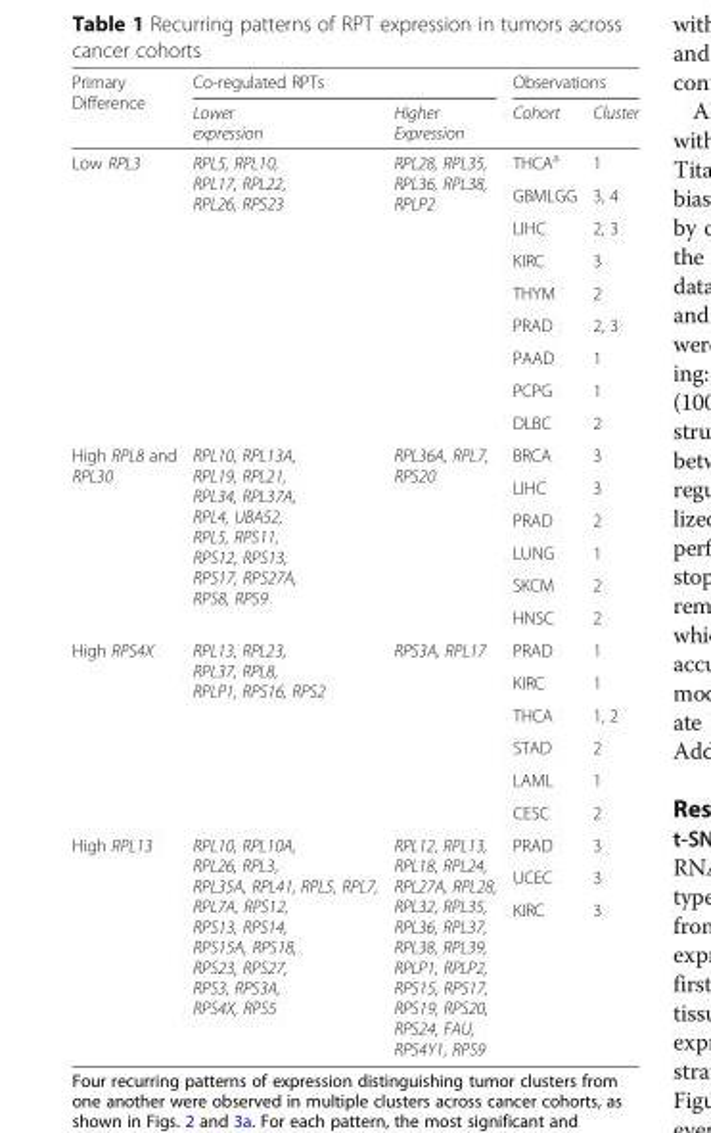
<table><thead><tr><td rowspan="2">Primary Difference</td><td colspan="2">Co-regulated RPTs</td><td colspan="2">Observations</td></tr><tr><td>Lower expression</td><td>Higher Expression</td><td>Cohort</td><td>Cluster</td></tr></thead><tbody><tr><td rowspan="9">Low RPL3</td><td rowspan="9">RPL5, RPL10, RPL17, RPL22, RPL26, RPS23</td><td rowspan="9">RPL28, RPL35, RPL36, RPL38, RPLP2</td><td>THCA<sup>a</sup></td><td>1</td></tr><tr><td>GBMLGG</td><td>3, 4</td></tr><tr><td>LIHC</td><td>2, 3</td></tr><tr><td>KIRC</td><td>3</td></tr><tr><td>THYM</td><td>2</td></tr><tr><td>PRAD</td><td>2, 3</td></tr><tr><td>PAAD</td><td>1</td></tr><tr><td>PCPG</td><td>1</td></tr><tr><td>DLBC</td><td>2</td></tr><tr><td rowspan="6">High RPL8 and RPL30</td><td rowspan="6">RPL10, RPL13A, RPL19, RPL21, RPL34, RPL37A, RPL4, UBA52, RPL5, RPS11, RPS12, RPS13, RPS17, RPS27A, RPS8, RPS9</td><td rowspan="6">RPL36A, RPL7, RPS20</td><td>BRCA</td><td>3</td></tr><tr><td>LIHC</td><td>3</td></tr><tr><td>PRAD</td><td>2</td></tr><tr><td>LUNG</td><td>1</td></tr><tr><td>SKCM</td><td>2</td></tr><tr><td>HNSC</td><td>2</td></tr><tr><td rowspan="6">High RPS4X</td><td rowspan="6">RPL13, RPL23, RPL37, RPL8, RPLP1, RPS16, RPS2</td><td rowspan="6">RPS3A, RPL17</td><td>PRAD</td><td>1</td></tr><tr><td>KIRC</td><td>1</td></tr><tr><td>THCA</td><td>1, 2</td></tr><tr><td>STAD</td><td>2</td></tr><tr><td>LAML</td><td>1</td></tr><tr><td>CESC</td><td>2</td></tr><tr><td rowspan="3">High RPL13</td><td rowspan="3">RPL10, RPL10A, RPL26, RPL3, RPL35A, RPL41, RPL5, RPL7, RPL7A, RPS12, RPS13, RPS14, RPS15A, RPS18, RPS23, RPS27, RPS3, RPS3A, RPS4X, RPS5</td><td rowspan="3">RPL12, RPL13, RPL18, RPL24, RPL27A, RPL28, RPL32, RPL35, RPL36, RPL37, RPL38, RPL39, RPLP1, RPLP2, RPS15, RPS17, RPS19, RPS20, RPS24, FAU, RPS4Y1, RPS9</td><td>PRAD</td><td>3</td></tr><tr><td>UCEC</td><td>3</td></tr><tr><td>KIRC</td><td>3</td></tr></tbody></table>